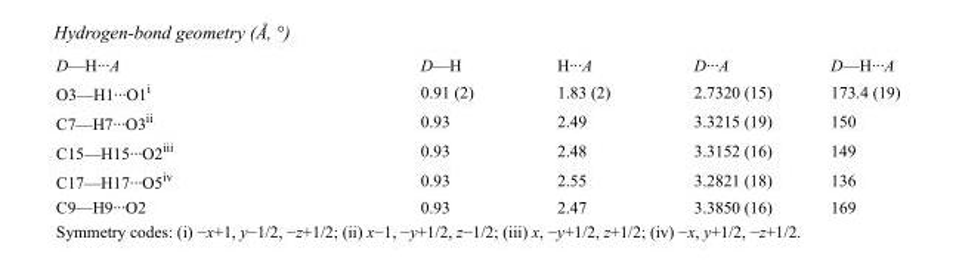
<table><tbody><tr><td>D—H···A</td><td>D—H</td><td>H···A</td><td>D···A</td><td>D—H···A</td></tr><tr><td>O3—H1···O1<sup>i</sup></td><td>0.91 (2)</td><td>1.83 (2)</td><td>2.7320 (15)</td><td>173.4 (19)</td></tr><tr><td>C7—H7···O3<sup>ii</sup></td><td>0.93</td><td>2.49</td><td>3.3215 (19)</td><td>150</td></tr><tr><td>C15—H15···O2<sup>iii</sup></td><td>0.93</td><td>2.48</td><td>3.3152 (16)</td><td>149</td></tr><tr><td>C17—H17···O5<sup>iv</sup></td><td>0.93</td><td>2.55</td><td>3.2821 (18)</td><td>136</td></tr><tr><td>C9—H9···O2</td><td>0.93</td><td>2.47</td><td>3.3850 (16)</td><td>169</td></tr></tbody></table>